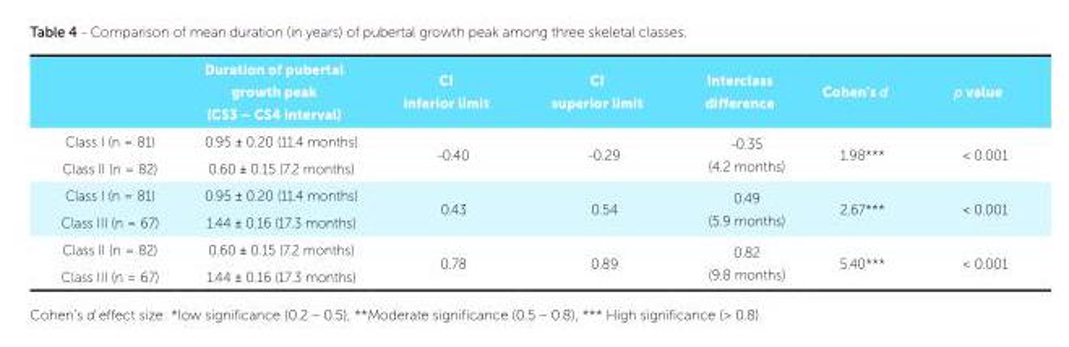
<table><thead><tr><td></td><td>Duration of pubertal growth peak (CS3 – CS4 interval)</td><td>CI inferior limit</td><td>CI superior limit</td><td>Interclass difference</td><td>Cohen’s d</td><td>p value</td></tr></thead><tbody><tr><td>Class I (n = 81)</td><td>0.95 ± 0.20 (11.4 months)</td><td rowspan="2">-0.40</td><td rowspan="2">-0.29</td><td rowspan="2">-0.35 (4.2 months)</td><td rowspan="2">1.98***</td><td rowspan="2">&lt; 0.001</td></tr><tr><td>Class II (n = 82)</td><td>0.60 ± 0.15 (7.2 months)</td></tr><tr><td>Class I (n = 81)</td><td>0.95 ± 0.20 (11.4 months)</td><td rowspan="2">0.43</td><td rowspan="2">0.54</td><td rowspan="2">0.49 (5.9 months)</td><td rowspan="2">2.67***</td><td rowspan="2">&lt; 0.001</td></tr><tr><td>Class III (n = 67)</td><td>1.44 ± 0.16 (17.3 months)</td></tr><tr><td>Class II (n = 82)</td><td>0.60 ± 0.15 (7.2 months)</td><td rowspan="2">0.78</td><td rowspan="2">0.89</td><td rowspan="2">0.82 (9.8 months)</td><td rowspan="2">5.40***</td><td rowspan="2">&lt; 0.001</td></tr><tr><td>Class III (n = 67)</td><td>1.44 ± 0.16 (17.3 months)</td></tr></tbody></table>